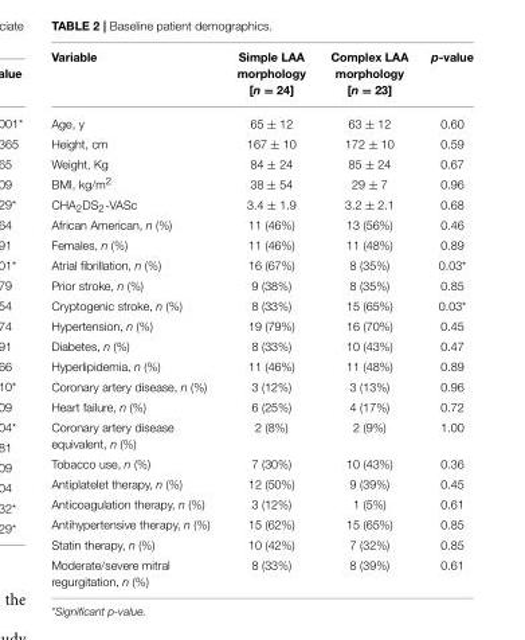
<table><thead><tr><td>Variable</td><td>Simple LAA morphology [n = 24]</td><td>Complex LAA morphology [n = 23]</td><td>p-value</td></tr></thead><tbody><tr><td>Age, y</td><td>65 ± 12</td><td>63 ± 12</td><td>0.60</td></tr><tr><td>Height, cm</td><td>167 ± 10</td><td>172 ± 10</td><td>0.59</td></tr><tr><td>Weight, Kg</td><td>84 ± 24</td><td>85 ± 24</td><td>0.67</td></tr><tr><td>BMI, kg/m<sup>2</sup></td><td>38 ± 54</td><td>29 ± 7</td><td>0.96</td></tr><tr><td>CHA<sub>2</sub>DS<sub>2</sub>-VASc</td><td>3.4 ± 1.9</td><td>3.2 ± 2.1</td><td>0.68</td></tr><tr><td>African American, n (%)</td><td>11 (46%)</td><td>13 (56%)</td><td>0.46</td></tr><tr><td>Females, n (%)</td><td>11 (46%)</td><td>11 (48%)</td><td>0.89</td></tr><tr><td>Atrial fibrillation, n (%)</td><td>16 (67%)</td><td>8 (35%)</td><td>0.03*</td></tr><tr><td>Prior stroke, n (%)</td><td>9 (38%)</td><td>8 (35%)</td><td>0.85</td></tr><tr><td>Cryptogenic stroke, n (%)</td><td>8 (33%)</td><td>15 (65%)</td><td>0.03*</td></tr><tr><td>Hypertension, n (%)</td><td>19 (79%)</td><td>16 (70%)</td><td>0.45</td></tr><tr><td>Diabetes, n (%)</td><td>8 (33%)</td><td>10 (43%)</td><td>0.47</td></tr><tr><td>Hyperlipidemia, n (%)</td><td>11 (46%)</td><td>11 (48%)</td><td>0.89</td></tr><tr><td>Coronary artery disease, n (%)</td><td>3 (12%)</td><td>3 (13%)</td><td>0.96</td></tr><tr><td>Heart failure, n (%)</td><td>6 (25%)</td><td>4 (17%)</td><td>0.72</td></tr><tr><td>Coronary artery disease equivalent, n (%)</td><td>2 (8%)</td><td>2 (9%)</td><td>1.00</td></tr><tr><td>Tobacco use, n (%)</td><td>7 (30%)</td><td>10 (43%)</td><td>0.36</td></tr><tr><td>Antiplatelet therapy, n (%)</td><td>12 (50%)</td><td>9 (39%)</td><td>0.45</td></tr><tr><td>Anticoagulation therapy, n (%)</td><td>3 (12%)</td><td>1 (5%)</td><td>0.61</td></tr><tr><td>Antihypertensive therapy, n (%)</td><td>15 (62%)</td><td>15 (65%)</td><td>0.85</td></tr><tr><td>Statin therapy, n (%)</td><td>10 (42%)</td><td>7 (32%)</td><td>0.85</td></tr><tr><td>Moderate/severe mitral regurgitation, n (%)</td><td>8 (33%)</td><td>8 (39%)</td><td>0.61</td></tr></tbody></table>